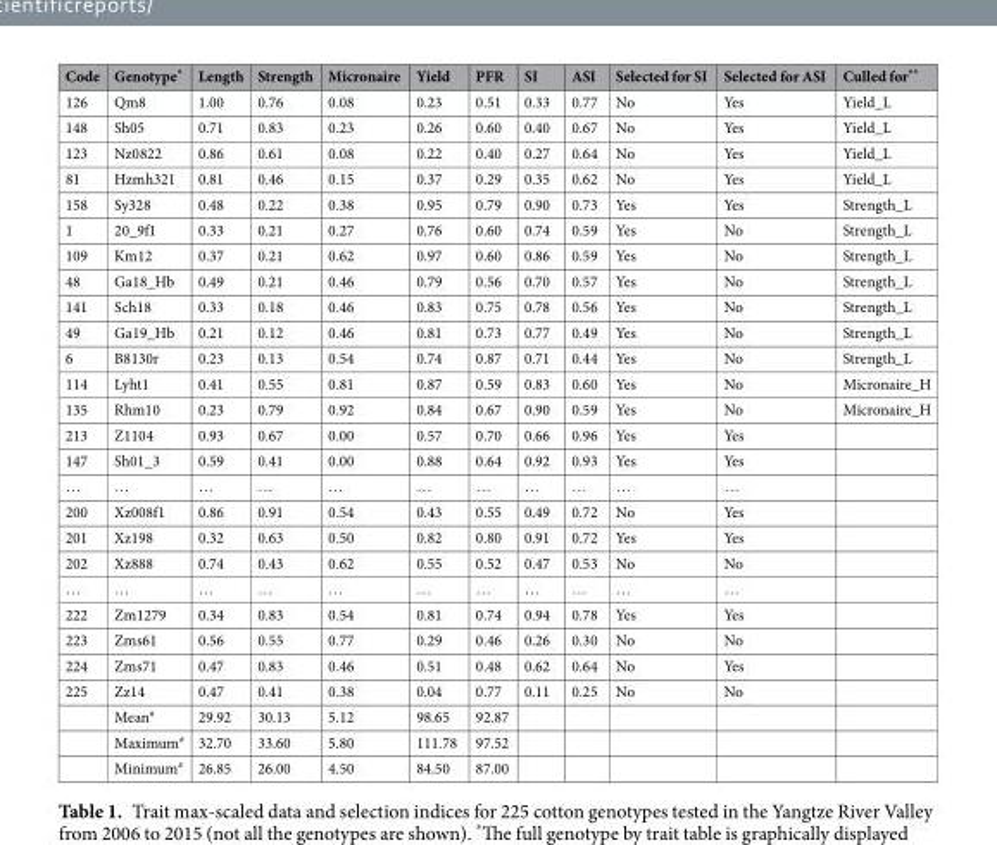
<table><thead><tr><td>Code</td><td>Genotype*</td><td>Length</td><td>Strength</td><td>Micronaire</td><td>Yield</td><td>PFR</td><td>SI</td><td>ASI</td><td>Selected for SI</td><td>Selected for ASI</td><td>Culled for**</td></tr></thead><tbody><tr><td>126</td><td>Qm8</td><td>1.00</td><td>0.76</td><td>0.08</td><td>0.23</td><td>0.51</td><td>0.33</td><td>0.77</td><td>No</td><td>Yes</td><td>Yield_L</td></tr><tr><td>148</td><td>Sh05</td><td>0.71</td><td>0.83</td><td>0.23</td><td>0.26</td><td>0.60</td><td>0.40</td><td>0.67</td><td>No</td><td>Yes</td><td>Yield_L</td></tr><tr><td>123</td><td>Nz0822</td><td>0.86</td><td>0.61</td><td>0.08</td><td>0.22</td><td>0.40</td><td>0.27</td><td>0.64</td><td>No</td><td>Yes</td><td>Yield_L</td></tr><tr><td>81</td><td>Hzmh321</td><td>0.81</td><td>0.46</td><td>0.15</td><td>0.37</td><td>0.29</td><td>0.35</td><td>0.62</td><td>No</td><td>Yes</td><td>Yield_L</td></tr><tr><td>158</td><td>Sy328</td><td>0.48</td><td>0.22</td><td>0.38</td><td>0.95</td><td>0.79</td><td>0.90</td><td>0.73</td><td>Yes</td><td>Yes</td><td>Strength_L</td></tr><tr><td>1</td><td>20_9f1</td><td>0.33</td><td>0.21</td><td>0.27</td><td>0.76</td><td>0.60</td><td>0.74</td><td>0.59</td><td>Yes</td><td>No</td><td>Strength_L</td></tr><tr><td>109</td><td>Km12</td><td>0.37</td><td>0.21</td><td>0.62</td><td>0.97</td><td>0.60</td><td>0.86</td><td>0.59</td><td>Yes</td><td>No</td><td>Strength_L</td></tr><tr><td>48</td><td>Ga18_Hb</td><td>0.49</td><td>0.21</td><td>0.46</td><td>0.79</td><td>0.56</td><td>0.70</td><td>0.57</td><td>Yes</td><td>No</td><td>Strength_L</td></tr><tr><td>141</td><td>Sch18</td><td>0.33</td><td>0.18</td><td>0.46</td><td>0.83</td><td>0.75</td><td>0.78</td><td>0.56</td><td>Yes</td><td>No</td><td>Strength_L</td></tr><tr><td>49</td><td>Ga19_Hb</td><td>0.21</td><td>0.12</td><td>0.46</td><td>0.81</td><td>0.73</td><td>0.77</td><td>0.49</td><td>Yes</td><td>No</td><td>Strength_L</td></tr><tr><td>6</td><td>B8130r</td><td>0.23</td><td>0.13</td><td>0.54</td><td>0.74</td><td>0.87</td><td>0.71</td><td>0.44</td><td>Yes</td><td>No</td><td>Strength_L</td></tr><tr><td>114</td><td>Lyht1</td><td>0.41</td><td>0.55</td><td>0.81</td><td>0.87</td><td>0.59</td><td>0.83</td><td>0.60</td><td>Yes</td><td>No</td><td>Micronaire_H</td></tr><tr><td>135</td><td>Rhm10</td><td>0.23</td><td>0.79</td><td>0.92</td><td>0.84</td><td>0.67</td><td>0.90</td><td>0.59</td><td>Yes</td><td>No</td><td>Micronaire_H</td></tr><tr><td>213</td><td>Z1104</td><td>0.93</td><td>0.67</td><td>0.00</td><td>0.57</td><td>0.70</td><td>0.66</td><td>0.96</td><td>Yes</td><td>Yes</td><td></td></tr><tr><td>147</td><td>Sh01_3</td><td>0.59</td><td>0.41</td><td>0.00</td><td>0.88</td><td>0.64</td><td>0.92</td><td>0.93</td><td>Yes</td><td>Yes</td><td></td></tr><tr><td>…</td><td>…</td><td>…</td><td>…</td><td>…</td><td>…</td><td>…</td><td>…</td><td>…</td><td>…</td><td>…</td><td></td></tr><tr><td>200</td><td>Xz008f1</td><td>0.86</td><td>0.91</td><td>0.54</td><td>0.43</td><td>0.55</td><td>0.49</td><td>0.72</td><td>No</td><td>Yes</td><td></td></tr><tr><td>201</td><td>Xz198</td><td>0.32</td><td>0.63</td><td>0.50</td><td>0.82</td><td>0.80</td><td>0.91</td><td>0.72</td><td>Yes</td><td>Yes</td><td></td></tr><tr><td>202</td><td>Xz888</td><td>0.74</td><td>0.43</td><td>0.62</td><td>0.55</td><td>0.52</td><td>0.47</td><td>0.53</td><td>No</td><td>No</td><td></td></tr><tr><td>…</td><td>…</td><td>…</td><td>…</td><td>…</td><td>…</td><td>…</td><td>…</td><td>…</td><td>…</td><td>…</td><td></td></tr><tr><td>222</td><td>Zm1279</td><td>0.34</td><td>0.83</td><td>0.54</td><td>0.81</td><td>0.74</td><td>0.94</td><td>0.78</td><td>Yes</td><td>Yes</td><td></td></tr><tr><td>223</td><td>Zms61</td><td>0.56</td><td>0.55</td><td>0.77</td><td>0.29</td><td>0.46</td><td>0.26</td><td>0.30</td><td>No</td><td>No</td><td></td></tr><tr><td>224</td><td>Zms71</td><td>0.47</td><td>0.83</td><td>0.46</td><td>0.51</td><td>0.48</td><td>0.62</td><td>0.64</td><td>No</td><td>Yes</td><td></td></tr><tr><td rowspan="4">225</td><td>Zz14</td><td>0.47</td><td>0.41</td><td>0.38</td><td>0.04</td><td>0.77</td><td>0.11</td><td>0.25</td><td>No</td><td>No</td><td></td></tr><tr><td>Mean<sup>#</sup></td><td>29.92</td><td>30.13</td><td>5.12</td><td>98.65</td><td>92.87</td><td></td><td></td><td></td><td></td><td></td></tr><tr><td>Maximum<sup>#</sup></td><td>32.70</td><td>33.60</td><td>5.80</td><td>111.78</td><td>97.52</td><td></td><td></td><td></td><td></td><td></td></tr><tr><td>Minimum<sup>#</sup></td><td>26.85</td><td>26.00</td><td>4.50</td><td>84.50</td><td>87.00</td><td></td><td></td><td></td><td></td><td></td></tr></tbody></table>